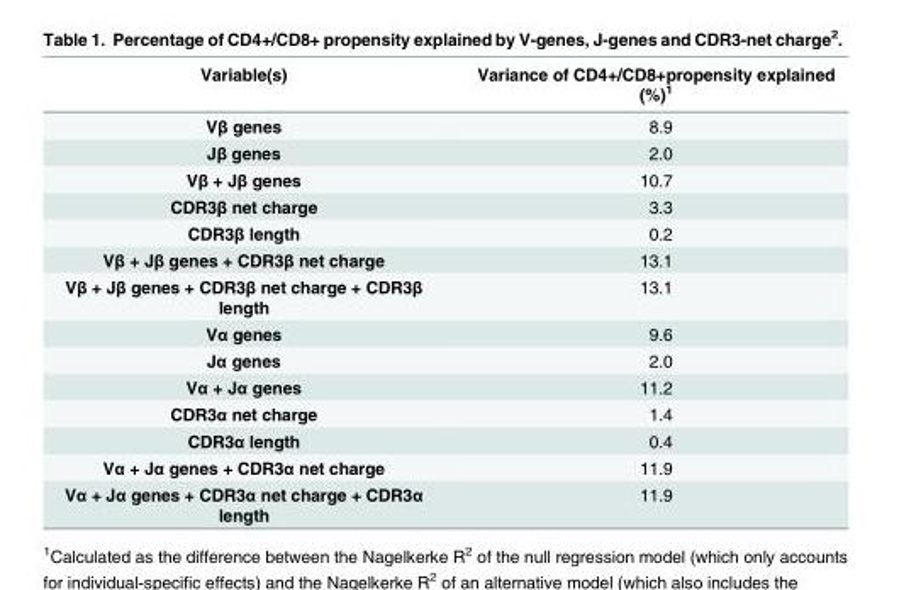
<table><thead><tr><td>Variable(s)</td><td>Variance of CD4+/CD8+propensity explained (%)<sup>1</sup></td></tr></thead><tbody><tr><td>Vβ genes</td><td>8.9</td></tr><tr><td>Jβ genes</td><td>2.0</td></tr><tr><td>Vβ + Jβ genes</td><td>10.7</td></tr><tr><td>CDR3β net charge</td><td>3.3</td></tr><tr><td>CDR3β length</td><td>0.2</td></tr><tr><td>Vβ + Jβ genes + CDR3β net charge</td><td>13.1</td></tr><tr><td>Vβ + Jβ genes + CDR3β net charge + CDR3β length</td><td>13.1</td></tr><tr><td>Vα genes</td><td>9.6</td></tr><tr><td>Jα genes</td><td>2.0</td></tr><tr><td>Vα + Jα genes</td><td>11.2</td></tr><tr><td>CDR3α net charge</td><td>1.4</td></tr><tr><td>CDR3α length</td><td>0.4</td></tr><tr><td>Vα + Jα genes + CDR3α net charge</td><td>11.9</td></tr><tr><td>Vα + Jα genes + CDR3α net charge + CDR3α length</td><td>11.9</td></tr></tbody></table>